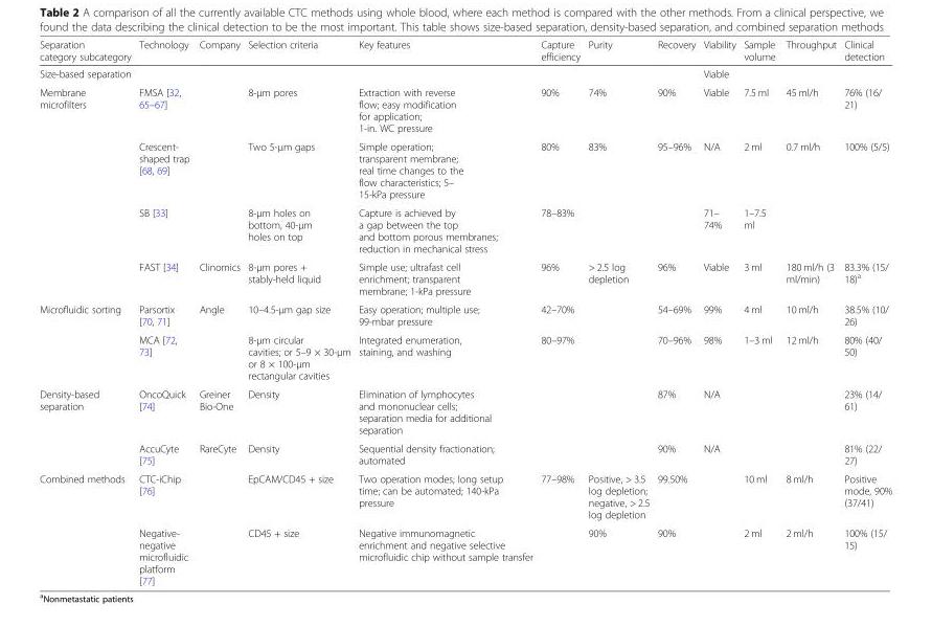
<table><thead><tr><td>Separation category subcategory</td><td>Technology</td><td>Company</td><td>Selection criteria</td><td>Key features</td><td>Capture efficiency</td><td>Purity</td><td>Recovery</td><td>Viability</td><td>Sample volume</td><td>Throughput</td><td>Clinical detection</td></tr></thead><tbody><tr><td>Size-based separation</td><td></td><td></td><td></td><td></td><td></td><td></td><td></td><td>Viable</td><td></td><td></td><td></td></tr><tr><td rowspan="4">Membrane microfilters</td><td>FMSA [32, 65–67]</td><td></td><td>8-μm pores</td><td>Extraction with reverse flow; easy modification for application; 1-in. WC pressure</td><td>90%</td><td>74%</td><td>90%</td><td>Viable</td><td>7.5 ml</td><td>45 ml/h</td><td>76% (16/ 21)</td></tr><tr><td>Crescent- shaped trap [68, 69]</td><td></td><td>Two 5-μm gaps</td><td>Simple operation; transparent membrane; real time changes to the flow characteristics; 5– 15-kPa pressure</td><td>80%</td><td>83%</td><td>95–96%</td><td>N/A</td><td>2 ml</td><td>0.7 ml/h</td><td>100% (5/5)</td></tr><tr><td>SB [33]</td><td></td><td>8-μm holes on bottom, 40-μm holes on top</td><td>Capture is achieved by a gap between the top and bottom porous membranes; reduction in mechanical stress</td><td>78–83%</td><td></td><td></td><td>71– 74%</td><td>1–7.5 ml</td><td></td><td></td></tr><tr><td>FAST [34]</td><td>Clinomics</td><td>8-μm pores + stably-held liquid</td><td>Simple use; ultrafast cell enrichment; transparent membrane; 1-kPa pressure</td><td>96%</td><td>&gt; 2.5 log depletion</td><td>96%</td><td>Viable</td><td>3 ml</td><td>180 ml/h (3 ml/min)</td><td>83.3% (15/ 18)<sup>a</sup></td></tr><tr><td rowspan="2">Microfluidic sorting</td><td>Parsortix [70, 71]</td><td>Angle</td><td>10–4.5-μm gap size</td><td>Easy operation; multiple use; 99-mbar pressure</td><td>42–70%</td><td></td><td>54–69%</td><td>99%</td><td>4 ml</td><td>10 ml/h</td><td>38.5% (10/ 26)</td></tr><tr><td>MCA [72, 73]</td><td></td><td>8-μm circular cavities; or 5–9 × 30-μm or 8 × 100-μm rectangular cavities</td><td>Integrated enumeration, staining, and washing</td><td>80–97%</td><td></td><td>70–96%</td><td>98%</td><td>1–3 ml</td><td>12 ml/h</td><td>80% (40/ 50)</td></tr><tr><td rowspan="2">Density-based separation</td><td>OncoQuick [74]</td><td>Greiner Bio-One</td><td>Density</td><td>Elimination of lymphocytes and mononuclear cells; separation media for additional separation</td><td></td><td></td><td>87%</td><td>N/A</td><td></td><td></td><td>23% (14/ 61)</td></tr><tr><td>AccuCyte [75]</td><td>RareCyte</td><td>Density</td><td>Sequential density fractionation; automated</td><td></td><td></td><td>90%</td><td>N/A</td><td></td><td></td><td>81% (22/ 27)</td></tr><tr><td rowspan="2">Combined methods</td><td>CTC-iChip [76]</td><td></td><td>EpCAM/CD45 + size</td><td>Two operation modes; long setup time; can be automated; 140-kPa pressure</td><td>77–98%</td><td>Positive, &gt; 3.5 log depletion; negative, &gt; 2.5 log depletion</td><td>99.50%</td><td></td><td>10 ml</td><td>8 ml/h</td><td>Positive mode, 90% (37/41)</td></tr><tr><td>Negative- negative microfluidic platform [77]</td><td></td><td>CD45 + size</td><td>Negative immunomagnetic enrichment and negative selective microfluidic chip without sample transfer</td><td></td><td>90%</td><td>90%</td><td></td><td>2 ml</td><td>2 ml/h</td><td>100% (15/ 15)</td></tr></tbody></table>